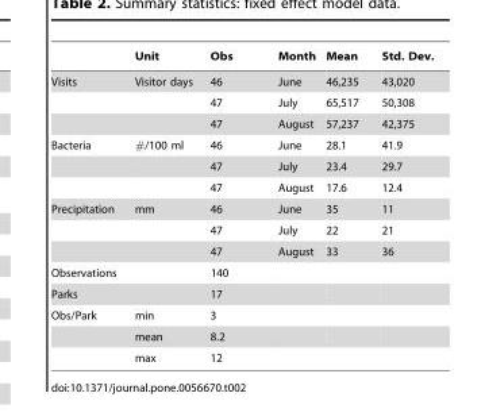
<table><thead><tr><td></td><td>Unit</td><td>Obs</td><td>Month</td><td>Mean</td><td>Std. Dev.</td></tr></thead><tbody><tr><td rowspan="3">Visits</td><td>Visitor days</td><td>46</td><td>June</td><td>46,235</td><td>43,020</td></tr><tr><td></td><td>47</td><td>July</td><td>65,517</td><td>50,308</td></tr><tr><td></td><td>47</td><td>August</td><td>57,237</td><td>42,375</td></tr><tr><td rowspan="3">Bacteria</td><td>#/100 ml</td><td>46</td><td>June</td><td>28.1</td><td>41.9</td></tr><tr><td></td><td>47</td><td>July</td><td>23.4</td><td>29.7</td></tr><tr><td></td><td>47</td><td>August</td><td>17.6</td><td>12.4</td></tr><tr><td rowspan="3">Precipitation</td><td>mm</td><td>46</td><td>June</td><td>35</td><td>11</td></tr><tr><td></td><td>47</td><td>July</td><td>22</td><td>21</td></tr><tr><td></td><td>47</td><td>August</td><td>33</td><td>36</td></tr><tr><td>Observations</td><td></td><td>140</td><td></td><td></td><td></td></tr><tr><td>Parks</td><td></td><td>17</td><td></td><td></td><td></td></tr><tr><td rowspan="3">Obs/Park</td><td>min</td><td>3</td><td></td><td></td><td></td></tr><tr><td>mean</td><td>8.2</td><td></td><td></td><td></td></tr><tr><td>max</td><td>12</td><td></td><td></td><td></td></tr></tbody></table>